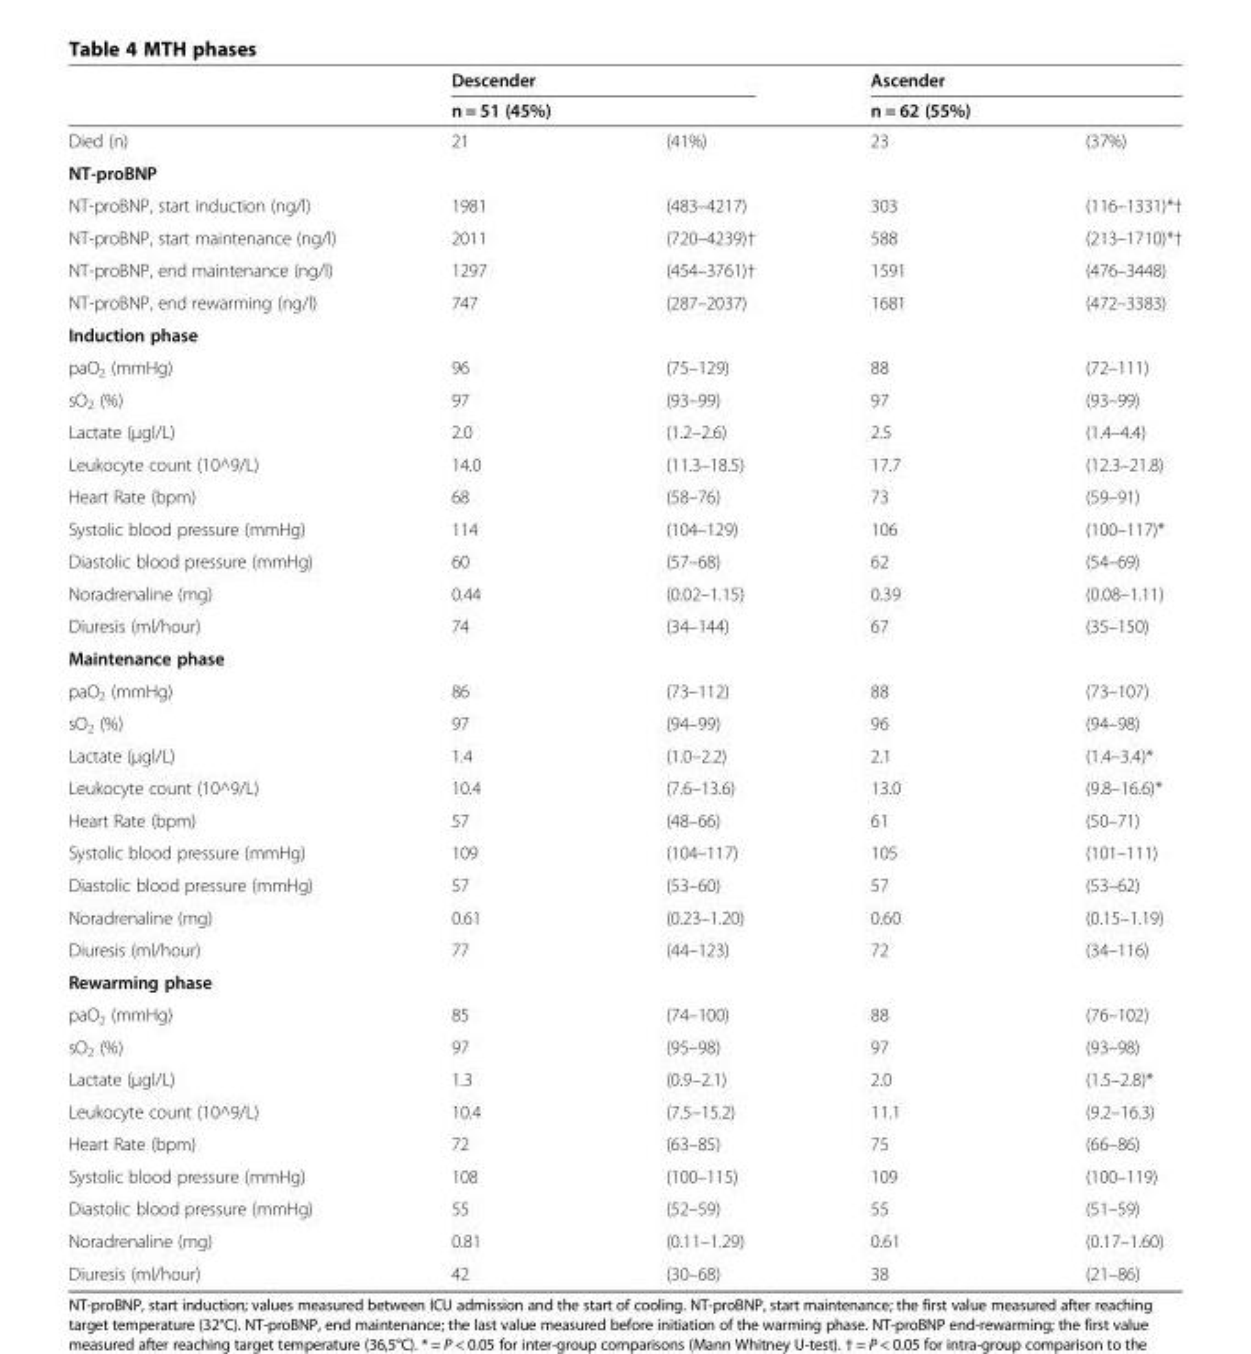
<table><thead><tr><td rowspan="2"></td><td colspan="2">Descender</td><td colspan="2">Ascender</td></tr><tr><td>n = 51 (45%)</td><td></td><td>n = 62 (55%)</td><td></td></tr></thead><tbody><tr><td>Died (n)</td><td>21</td><td>(41%)</td><td>23</td><td>(37%)</td></tr><tr><td colspan="5">NT-proBNP</td></tr><tr><td>NT-proBNP, start induction (ng/l)</td><td>1981</td><td>(483–4217)</td><td>303</td><td>(116–1331)*†</td></tr><tr><td>NT-proBNP, start maintenance (ng/l)</td><td>2011</td><td>(720–4239)†</td><td>588</td><td>(213–1710)*†</td></tr><tr><td>NT-proBNP, end maintenance (ng/l)</td><td>1297</td><td>(454–3761)†</td><td>1591</td><td>(476–3448)</td></tr><tr><td>NT-proBNP, end rewarming (ng/l)</td><td>747</td><td>(287–2037)</td><td>1681</td><td>(472–3383)</td></tr><tr><td colspan="5">Induction phase</td></tr><tr><td>paO<sub>2</sub> (mmHg)</td><td>96</td><td>(75–129)</td><td>88</td><td>(72–111)</td></tr><tr><td>sO<sub>2</sub> (%)</td><td>97</td><td>(93–99)</td><td>97</td><td>(93–99)</td></tr><tr><td>Lactate (μgl/L)</td><td>2.0</td><td>(1.2–2.6)</td><td>2.5</td><td>(1.4–4.4)</td></tr><tr><td>Leukocyte count (10^9/L)</td><td>14.0</td><td>(11.3–18.5)</td><td>17.7</td><td>(12.3–21.8)</td></tr><tr><td>Heart Rate (bpm)</td><td>68</td><td>(58–76)</td><td>73</td><td>(59–91)</td></tr><tr><td>Systolic blood pressure (mmHg)</td><td>114</td><td>(104–129)</td><td>106</td><td>(100–117)*</td></tr><tr><td>Diastolic blood pressure (mmHg)</td><td>60</td><td>(57–68)</td><td>62</td><td>(54–69)</td></tr><tr><td>Noradrenaline (mg)</td><td>0.44</td><td>(0.02–1.15)</td><td>0.39</td><td>(0.08–1.11)</td></tr><tr><td>Diuresis (ml/hour)</td><td>74</td><td>(34–144)</td><td>67</td><td>(35–150)</td></tr><tr><td colspan="5">Maintenance phase</td></tr><tr><td>paO<sub>2</sub> (mmHg)</td><td>86</td><td>(73–112)</td><td>88</td><td>(73–107)</td></tr><tr><td>sO<sub>2</sub> (%)</td><td>97</td><td>(94–99)</td><td>96</td><td>(94–98)</td></tr><tr><td>Lactate (μgl/L)</td><td>1.4</td><td>(1.0–2.2)</td><td>2.1</td><td>(1.4–3.4)*</td></tr><tr><td>Leukocyte count (10^9/L)</td><td>10.4</td><td>(7.6–13.6)</td><td>13.0</td><td>(9.8–16.6)*</td></tr><tr><td>Heart Rate (bpm)</td><td>57</td><td>(48–66)</td><td>61</td><td>(50–71)</td></tr><tr><td>Systolic blood pressure (mmHg)</td><td>109</td><td>(104–117)</td><td>105</td><td>(101–111)</td></tr><tr><td>Diastolic blood pressure (mmHg)</td><td>57</td><td>(53–60)</td><td>57</td><td>(53–62)</td></tr><tr><td>Noradrenaline (mg)</td><td>0.61</td><td>(0.23–1.20)</td><td>0.60</td><td>(0.15–1.19)</td></tr><tr><td>Diuresis (ml/hour)</td><td>77</td><td>(44–123)</td><td>72</td><td>(34–116)</td></tr><tr><td colspan="5">Rewarming phase</td></tr><tr><td>paO<sub>2</sub> (mmHg)</td><td>85</td><td>(74–100)</td><td>88</td><td>(76–102)</td></tr><tr><td>sO<sub>2</sub> (%)</td><td>97</td><td>(95–98)</td><td>97</td><td>(93–98)</td></tr><tr><td>Lactate (μgl/L)</td><td>1.3</td><td>(0.9–2.1)</td><td>2.0</td><td>(1.5–2.8)*</td></tr><tr><td>Leukocyte count (10^9/L)</td><td>10.4</td><td>(7.5–15.2)</td><td>11.1</td><td>(9.2–16.3)</td></tr><tr><td>Heart Rate (bpm)</td><td>72</td><td>(63–85)</td><td>75</td><td>(66–86)</td></tr><tr><td>Systolic blood pressure (mmHg)</td><td>108</td><td>(100–115)</td><td>109</td><td>(100–119)</td></tr><tr><td>Diastolic blood pressure (mmHg)</td><td>55</td><td>(52–59)</td><td>55</td><td>(51–59)</td></tr><tr><td>Noradrenaline (mg)</td><td>0.81</td><td>(0.11–1.29)</td><td>0.61</td><td>(0.17–1.60)</td></tr><tr><td>Diuresis (ml/hour)</td><td>42</td><td>(30–68)</td><td>38</td><td>(21–86)</td></tr></tbody></table>